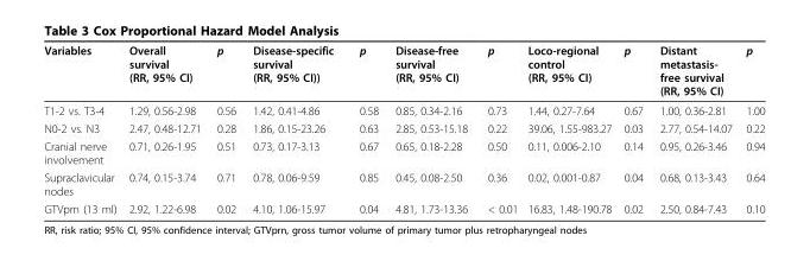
<table><thead><tr><td>Variables</td><td>Overall survival (RR, 95% CI)</td><td>p</td><td>Disease-specific survival (RR, 95% CI))</td><td>p</td><td>Disease-free survival (RR, 95% CI)</td><td>p</td><td>Loco-regional control (RR, 95% CI)</td><td>p</td><td>Distant metastasis- free survival (RR, 95% CI)</td><td>p</td></tr></thead><tbody><tr><td>T1-2 vs. T3-4</td><td>1.29, 0.56-2.98</td><td>0.56</td><td>1.42, 0.41-4.86</td><td>0.58</td><td>0.85, 0.34-2.16</td><td>0.73</td><td>1.44, 0.27-7.64</td><td>0.67</td><td>1.00, 0.36-2.81</td><td>1.00</td></tr><tr><td>N0-2 vs. N3</td><td>2.47, 0.48-12.71</td><td>0.28</td><td>1.86, 0.15-23.26</td><td>0.63</td><td>2.85, 0.53-15.18</td><td>0.22</td><td>39.06, 1.55-983.27</td><td>0.03</td><td>2.77, 0.54-14.07</td><td>0.22</td></tr><tr><td>Cranial nerve involvement</td><td>0.71, 0.26-1.95</td><td>0.51</td><td>0.73, 0.17-3.13</td><td>0.67</td><td>0.65, 0.18-2.28</td><td>0.50</td><td>0.11, 0.006-2.10</td><td>0.14</td><td>0.95, 0.26-3.46</td><td>0.94</td></tr><tr><td>Supraclavicular nodes</td><td>0.74, 0.15-3.74</td><td>0.71</td><td>0.78, 0.06-9.59</td><td>0.85</td><td>0.45, 0.08-2.50</td><td>0.36</td><td>0.02, 0.001-0.87</td><td>0.04</td><td>0.68, 0.13-3.43</td><td>0.64</td></tr><tr><td>GTVprn (13 ml)</td><td>2.92, 1.22-6.98</td><td>0.02</td><td>4.10, 1.06-15.97</td><td>0.04</td><td>4.81, 1.73-13.36</td><td>&lt; 0.01</td><td>16.83, 1.48-190.78</td><td>0.02</td><td>2.50, 0.84-7.43</td><td>0.10</td></tr></tbody></table>